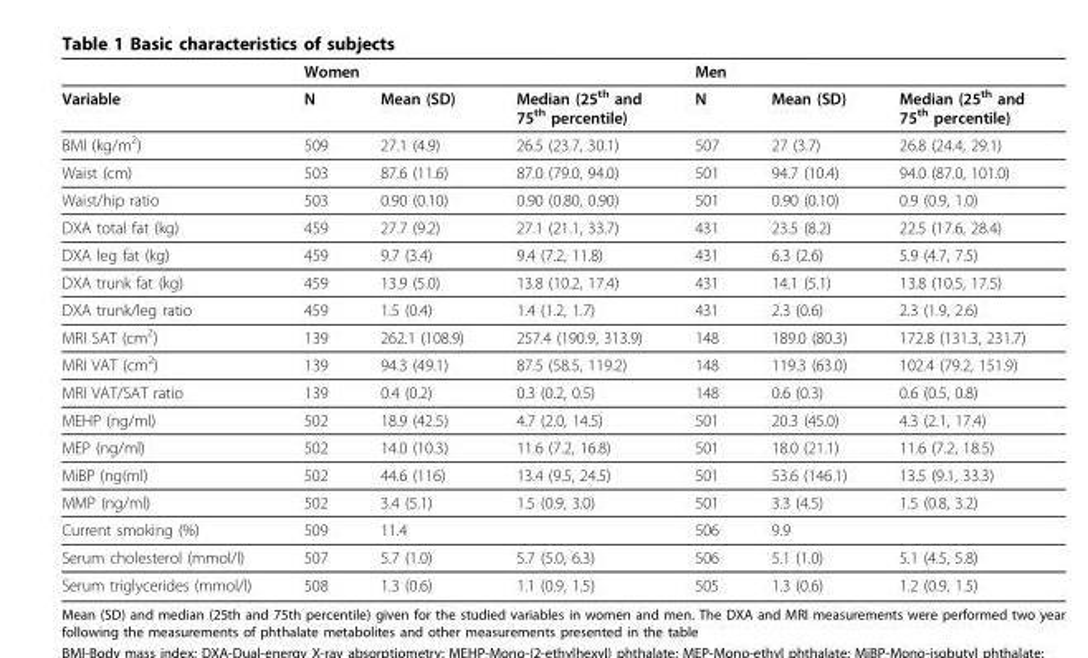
<table><thead><tr><td rowspan="2">Variable</td><td colspan="3">Women</td><td colspan="3">Men</td></tr><tr><td>N</td><td>Mean (SD)</td><td>Median (25<sup>th</sup> and 75<sup>th</sup> percentile)</td><td>N</td><td>Mean (SD)</td><td>Median (25<sup>th</sup> and 75<sup>th</sup> percentile)</td></tr></thead><tbody><tr><td>BMI (kg/m<sup>2</sup>)</td><td>509</td><td>27.1 (4.9)</td><td>26.5 (23.7, 30.1)</td><td>507</td><td>27 (3.7)</td><td>26.8 (24.4, 29.1)</td></tr><tr><td>Waist (cm)</td><td>503</td><td>87.6 (11.6)</td><td>87.0 (79.0, 94.0)</td><td>501</td><td>94.7 (10.4)</td><td>94.0 (87.0, 101.0)</td></tr><tr><td>Waist/hip ratio</td><td>503</td><td>0.90 (0.10)</td><td>0.90 (0.80, 0.90)</td><td>501</td><td>0.90 (0.10)</td><td>0.9 (0.9, 1.0)</td></tr><tr><td>DXA total fat (kg)</td><td>459</td><td>27.7 (9.2)</td><td>27.1 (21.1, 33.7)</td><td>431</td><td>23.5 (8.2)</td><td>22.5 (17.6, 28.4)</td></tr><tr><td>DXA leg fat (kg)</td><td>459</td><td>9.7 (3.4)</td><td>9.4 (7.2, 11.8)</td><td>431</td><td>6.3 (2.6)</td><td>5.9 (4.7, 7.5)</td></tr><tr><td>DXA trunk fat (kg)</td><td>459</td><td>13.9 (5.0)</td><td>13.8 (10.2, 17.4)</td><td>431</td><td>14.1 (5.1)</td><td>13.8 (10.5, 17.5)</td></tr><tr><td>DXA trunk/leg ratio</td><td>459</td><td>1.5 (0.4)</td><td>1.4 (1.2, 1.7)</td><td>431</td><td>2.3 (0.6)</td><td>2.3 (1.9, 2.6)</td></tr><tr><td>MRI SAT (cm<sup>2</sup>)</td><td>139</td><td>262.1 (108.9)</td><td>257.4 (190.9, 313.9)</td><td>148</td><td>189.0 (80.3)</td><td>172.8 (131.3, 231.7)</td></tr><tr><td>MRI VAT (cm<sup>2</sup>)</td><td>139</td><td>94.3 (49.1)</td><td>87.5 (58.5, 119.2)</td><td>148</td><td>119.3 (63.0)</td><td>102.4 (79.2, 151.9)</td></tr><tr><td>MRI VAT/SAT ratio</td><td>139</td><td>0.4 (0.2)</td><td>0.3 (0.2, 0.5)</td><td>148</td><td>0.6 (0.3)</td><td>0.6 (0.5, 0.8)</td></tr><tr><td>MEHP (ng/ml)</td><td>502</td><td>18.9 (42.5)</td><td>4.7 (2.0, 14.5)</td><td>501</td><td>20.3 (45.0)</td><td>4.3 (2.1, 17.4)</td></tr><tr><td>MEP (ng/ml)</td><td>502</td><td>14.0 (10.3)</td><td>11.6 (7.2, 16.8)</td><td>501</td><td>18.0 (21.1)</td><td>11.6 (7.2, 18.5)</td></tr><tr><td>MiBP (ng(ml)</td><td>502</td><td>44.6 (116)</td><td>13.4 (9.5, 24.5)</td><td>501</td><td>53.6 (146.1)</td><td>13.5 (9.1, 33.3)</td></tr><tr><td>MMP (ng/ml)</td><td>502</td><td>3.4 (5.1)</td><td>1.5 (0.9, 3.0)</td><td>501</td><td>3.3 (4.5)</td><td>1.5 (0.8, 3.2)</td></tr><tr><td>Current smoking (%)</td><td>509</td><td>11.4</td><td></td><td>506</td><td>9.9</td><td></td></tr><tr><td>Serum cholesterol (mmol/l)</td><td>507</td><td>5.7 (1.0)</td><td>5.7 (5.0, 6.3)</td><td>506</td><td>5.1 (1.0)</td><td>5.1 (4.5, 5.8)</td></tr><tr><td>Serum triglycerides (mmol/l)</td><td>508</td><td>1.3 (0.6)</td><td>1.1 (0.9, 1.5)</td><td>505</td><td>1.3 (0.6)</td><td>1.2 (0.9, 1.5)</td></tr></tbody></table>